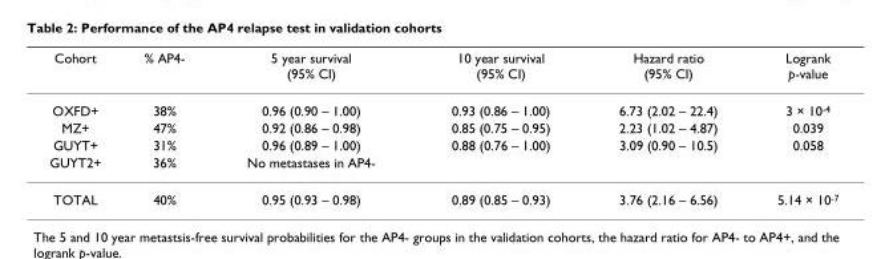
<table><thead><tr><td>Cohort</td><td>% AP4-</td><td>5 year survival (95% CI)</td><td>10 year survival (95% CI)</td><td>Hazard ratio (95% CI)</td><td>Logrank p-value</td></tr></thead><tbody><tr><td>OXFD+</td><td>38%</td><td>0.96 (0.90 – 1.00)</td><td>0.93 (0.86 – 1.00)</td><td>6.73 (2.02 – 22.4)</td><td>3 × 10<sup>-4</sup></td></tr><tr><td>MZ+</td><td>47%</td><td>0.92 (0.86 – 0.98)</td><td>0.85 (0.75 – 0.95)</td><td>2.23 (1.02 – 4.87)</td><td>0.039</td></tr><tr><td>GUYT+</td><td>31%</td><td>0.96 (0.89 – 1.00)</td><td>0.88 (0.76 – 1.00)</td><td>3.09 (0.90 – 10.5)</td><td>0.058</td></tr><tr><td>GUYT2+</td><td>36%</td><td>No metastases in AP4-</td><td></td><td></td><td></td></tr><tr><td>TOTAL</td><td>40%</td><td>0.95 (0.93 – 0.98)</td><td>0.89 (0.85 – 0.93)</td><td>3.76 (2.16 – 6.56)</td><td>5.14 × 10<sup>-7</sup></td></tr></tbody></table>